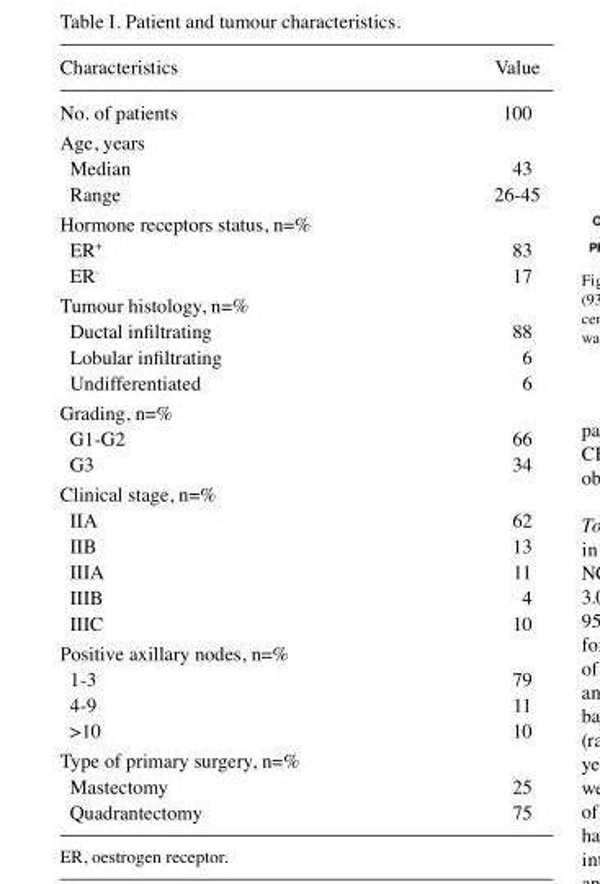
<table><thead><tr><td>Characteristics</td><td>Value</td></tr></thead><tbody><tr><td>No. of patients</td><td>100</td></tr><tr><td colspan="2">Age, years</td></tr><tr><td>Median</td><td>43</td></tr><tr><td>Range</td><td>26-45</td></tr><tr><td colspan="2">Hormone receptors status, n=%</td></tr><tr><td>ER<sup>+</sup></td><td>83</td></tr><tr><td>ER<sup>-</sup></td><td>17</td></tr><tr><td colspan="2">Tumour histology, n=%</td></tr><tr><td>Ductal infiltrating</td><td>88</td></tr><tr><td>Lobular infiltrating</td><td>6</td></tr><tr><td>Undifferentiated</td><td>6</td></tr><tr><td colspan="2">Grading, n=%</td></tr><tr><td>G1-G2</td><td>66</td></tr><tr><td>G3</td><td>34</td></tr><tr><td colspan="2">Clinical stage, n=%</td></tr><tr><td>IIA</td><td>62</td></tr><tr><td>IIB</td><td>13</td></tr><tr><td>IIIA</td><td>11</td></tr><tr><td>IIIB</td><td>4</td></tr><tr><td>IIIC</td><td>10</td></tr><tr><td colspan="2">Positive axillary nodes, n=%</td></tr><tr><td>1-3</td><td>79</td></tr><tr><td>4-9</td><td>11</td></tr><tr><td>&gt;10</td><td>10</td></tr><tr><td colspan="2">Type of primary surgery, n=%</td></tr><tr><td>Mastectomy</td><td>25</td></tr><tr><td>Quadrantectomy</td><td>75</td></tr></tbody></table>